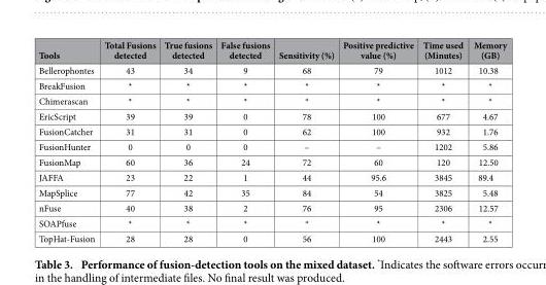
<table><thead><tr><td>Tools</td><td>Total Fusions detected</td><td>True fusions detected</td><td>False fusions detected</td><td>Sensitivity (%)</td><td>Positive predictive value (%)</td><td>Time used (Minutes)</td><td>Memory (GB)</td></tr></thead><tbody><tr><td>Bellerophontes</td><td>43</td><td>34</td><td>9</td><td>68</td><td>79</td><td>1012</td><td>10.38</td></tr><tr><td>BreakFusion</td><td>*</td><td>*</td><td>*</td><td>*</td><td>*</td><td>*</td><td>*</td></tr><tr><td>Chimerascan</td><td>*</td><td>*</td><td>*</td><td>*</td><td>*</td><td>*</td><td>*</td></tr><tr><td>EricScript</td><td>39</td><td>39</td><td>0</td><td>78</td><td>100</td><td>677</td><td>4.67</td></tr><tr><td>FusionCatcher</td><td>31</td><td>31</td><td>0</td><td>62</td><td>100</td><td>932</td><td>1.76</td></tr><tr><td>FusionHunter</td><td>0</td><td>0</td><td>0</td><td>–</td><td>–</td><td>1202</td><td>5.86</td></tr><tr><td>FusionMap</td><td>60</td><td>36</td><td>24</td><td>72</td><td>60</td><td>120</td><td>12.50</td></tr><tr><td>JAFFA</td><td>23</td><td>22</td><td>1</td><td>44</td><td>95.6</td><td>3845</td><td>89.4</td></tr><tr><td>MapSplice</td><td>77</td><td>42</td><td>35</td><td>84</td><td>54</td><td>3825</td><td>5.48</td></tr><tr><td>nFuse</td><td>40</td><td>38</td><td>2</td><td>76</td><td>95</td><td>2306</td><td>12.57</td></tr><tr><td>SOAPfuse</td><td>*</td><td>*</td><td>*</td><td>*</td><td>*</td><td>*</td><td>*</td></tr><tr><td>TopHat-Fusion</td><td>28</td><td>28</td><td>0</td><td>56</td><td>100</td><td>2443</td><td>2.55</td></tr></tbody></table>